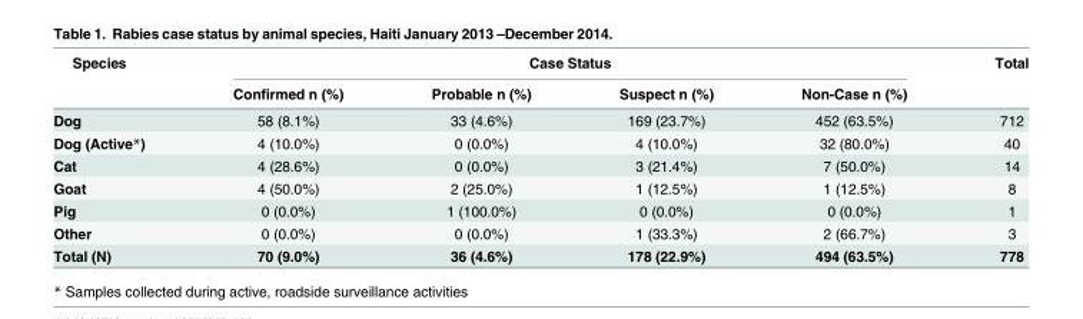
<table><thead><tr><td rowspan="2">Species</td><td colspan="4">Case Status</td><td rowspan="2">Total</td></tr><tr><td>Confirmed n (%)</td><td>Probable n (%)</td><td>Suspect n (%)</td><td>Non-Case n (%)</td></tr></thead><tbody><tr><td>Dog</td><td>58 (8.1%)</td><td>33 (4.6%)</td><td>169 (23.7%)</td><td>452 (63.5%)</td><td>712</td></tr><tr><td>Dog (Active*)</td><td>4 (10.0%)</td><td>0 (0.0%)</td><td>4 (10.0%)</td><td>32 (80.0%)</td><td>40</td></tr><tr><td>Cat</td><td>4 (28.6%)</td><td>0 (0.0%)</td><td>3 (21.4%)</td><td>7 (50.0%)</td><td>14</td></tr><tr><td>Goat</td><td>4 (50.0%)</td><td>2 (25.0%)</td><td>1 (12.5%)</td><td>1 (12.5%)</td><td>8</td></tr><tr><td>Pig</td><td>0 (0.0%)</td><td>1 (100.0%)</td><td>0 (0.0%)</td><td>0 (0.0%)</td><td>1</td></tr><tr><td>Other</td><td>0 (0.0%)</td><td>0 (0.0%)</td><td>1 (33.3%)</td><td>2 (66.7%)</td><td>3</td></tr><tr><td>Total (N)</td><td>70 (9.0%)</td><td>36 (4.6%)</td><td>178 (22.9%)</td><td>494 (63.5%)</td><td>778</td></tr></tbody></table>